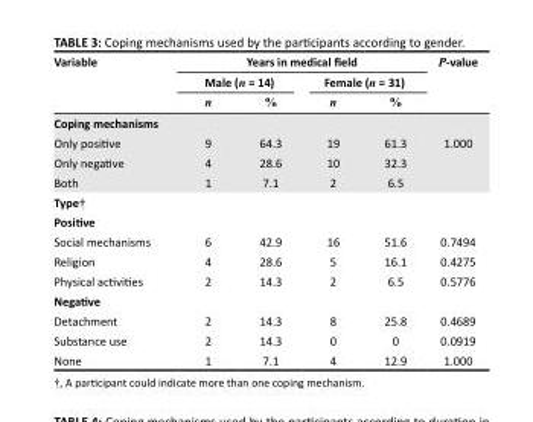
<table><thead><tr><td rowspan="3">Variable</td><td colspan="4">Years in medical field</td><td rowspan="3">P-value</td></tr><tr><td colspan="2">Male (n = 14)</td><td colspan="2">Female (n = 31)</td></tr><tr><td>n</td><td>%</td><td>n</td><td>%</td></tr></thead><tbody><tr><td colspan="6">Coping mechanisms</td></tr><tr><td>Only positive</td><td>9</td><td>64.3</td><td>19</td><td>61.3</td><td rowspan="3">1.000</td></tr><tr><td>Only negative</td><td>4</td><td>28.6</td><td>10</td><td>32.3</td></tr><tr><td>Both</td><td>1</td><td>7.1</td><td>2</td><td>6.5</td></tr><tr><td colspan="6">Type†</td></tr><tr><td colspan="6">Positive</td></tr><tr><td>Social mechanisms</td><td>6</td><td>42.9</td><td>16</td><td>51.6</td><td>0.7494</td></tr><tr><td>Religion</td><td>4</td><td>28.6</td><td>5</td><td>16.1</td><td>0.4275</td></tr><tr><td>Physical activities</td><td>2</td><td>14.3</td><td>2</td><td>6.5</td><td>0.5776</td></tr><tr><td colspan="6">Negative</td></tr><tr><td>Detachment</td><td>2</td><td>14.3</td><td>8</td><td>25.8</td><td>0.4689</td></tr><tr><td>Substance use</td><td>2</td><td>14.3</td><td>0</td><td>0</td><td>0.0919</td></tr><tr><td>None</td><td>1</td><td>7.1</td><td>4</td><td>12.9</td><td>1.000</td></tr></tbody></table>